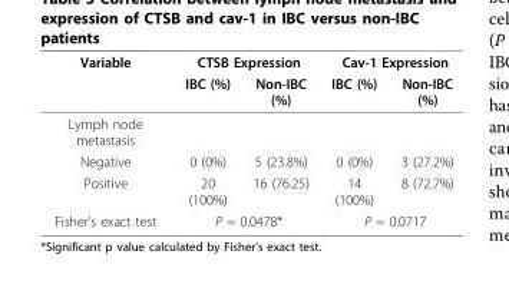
<table><thead><tr><td rowspan="2">Variable</td><td colspan="2">CTSB Expression</td><td colspan="2">Cav-1 Expression</td></tr><tr><td>IBC (%)</td><td>Non-IBC (%)</td><td>IBC (%)</td><td>Non-IBC (%)</td></tr></thead><tbody><tr><td colspan="5">Lymph node metastasis</td></tr><tr><td>Negative</td><td>0 (0%)</td><td>5 (23.8%)</td><td>0 (0%)</td><td>3 (27.2%)</td></tr><tr><td>Positive</td><td>20 (100%)</td><td>16 (76.25)</td><td>14 (100%)</td><td>8 (72.7%)</td></tr><tr><td>Fisher’s exact test</td><td colspan="2">P = 0.0478*</td><td colspan="2">P = 0.0717</td></tr></tbody></table>